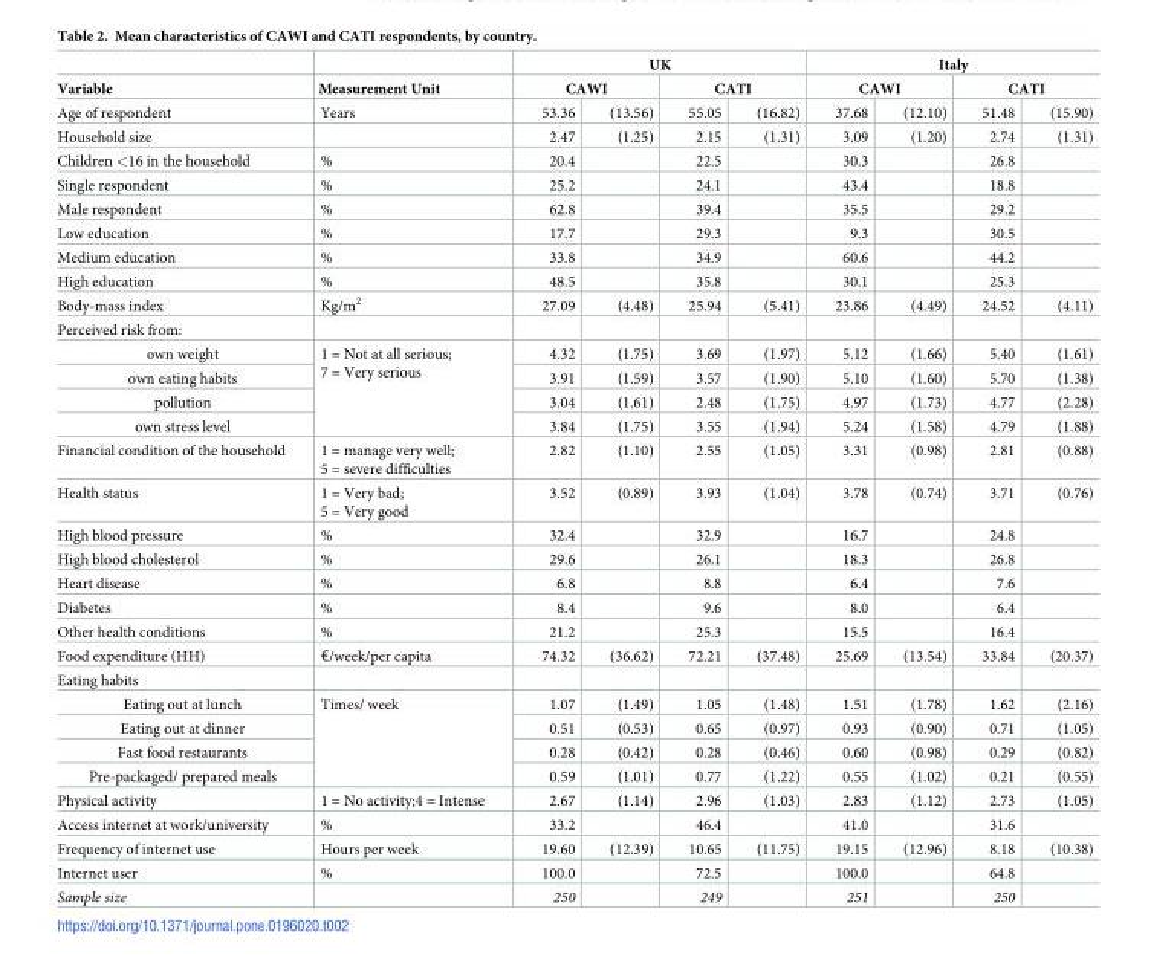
<table><thead><tr><td rowspan="3">Variable Age of respondent</td><td rowspan="3">Measurement Unit Years</td><td colspan="4">UK</td><td colspan="4">Italy</td></tr><tr><td colspan="2">CAWI</td><td colspan="2">CATI</td><td colspan="2">CAWI</td><td colspan="2">CATI</td></tr><tr><td>53.36</td><td>(13.56)</td><td>55.05</td><td>(16.82)</td><td>37.68</td><td>(12.10)</td><td>51.48</td><td>(15.90)</td></tr></thead><tbody><tr><td>Household size</td><td></td><td>2.47</td><td>(1.25)</td><td>2.15</td><td>(1.31)</td><td>3.09</td><td>(1.20)</td><td>2.74</td><td>(1.31)</td></tr><tr><td>Children &lt;16 in the household</td><td>%</td><td>20.4</td><td></td><td>22.5</td><td></td><td>30.3</td><td></td><td>26.8</td><td></td></tr><tr><td>Single respondent</td><td>%</td><td>25.2</td><td></td><td>24.1</td><td></td><td>43.4</td><td></td><td>18.8</td><td></td></tr><tr><td>Male respondent</td><td>%</td><td>62.8</td><td></td><td>39.4</td><td></td><td>35.5</td><td></td><td>29.2</td><td></td></tr><tr><td>Low education</td><td>%</td><td>17.7</td><td></td><td>29.3</td><td></td><td>9.3</td><td></td><td>30.5</td><td></td></tr><tr><td>Medium education</td><td>%</td><td>33.8</td><td></td><td>34.9</td><td></td><td>60.6</td><td></td><td>44.2</td><td></td></tr><tr><td>High education</td><td>%</td><td>48.5</td><td></td><td>35.8</td><td></td><td>30.1</td><td></td><td>25.3</td><td></td></tr><tr><td>Body-mass index</td><td>Kg/m<sup>2</sup></td><td>27.09</td><td>(4.48)</td><td>25.94</td><td>(5.41)</td><td>23.86</td><td>(4.49)</td><td>24.52</td><td>(4.11)</td></tr><tr><td colspan="10">Perceived risk from:</td></tr><tr><td>own weight</td><td rowspan="4">1 = Not at all serious; 7 = Very serious</td><td>4.32</td><td>(1.75)</td><td>3.69</td><td>(1.97)</td><td>5.12</td><td>(1.66)</td><td>5.40</td><td>(1.61)</td></tr><tr><td>own eating habits</td><td>3.91</td><td>(1.59)</td><td>3.57</td><td>(1.90)</td><td>5.10</td><td>(1.60)</td><td>5.70</td><td>(1.38)</td></tr><tr><td>pollution</td><td>3.04</td><td>(1.61)</td><td>2.48</td><td>(1.75)</td><td>4.97</td><td>(1.73)</td><td>4.77</td><td>(2.28)</td></tr><tr><td>own stress level</td><td>3.84</td><td>(1.75)</td><td>3.55</td><td>(1.94)</td><td>5.24</td><td>(1.58)</td><td>4.79</td><td>(1.88)</td></tr><tr><td>Financial condition of the household</td><td>1 = manage very well; 5 = severe difficulties</td><td>2.82</td><td>(1.10)</td><td>2.55</td><td>(1.05)</td><td>3.31</td><td>(0.98)</td><td>2.81</td><td>(0.88)</td></tr><tr><td>Health status</td><td>1 = Very bad; 5 = Very good</td><td>3.52</td><td>(0.89)</td><td>3.93</td><td>(1.04)</td><td>3.78</td><td>(0.74)</td><td>3.71</td><td>(0.76)</td></tr><tr><td>High blood pressure</td><td>%</td><td>32.4</td><td></td><td>32.9</td><td></td><td>16.7</td><td></td><td>24.8</td><td></td></tr><tr><td>High blood cholesterol</td><td>%</td><td>29.6</td><td></td><td>26.1</td><td></td><td>18.3</td><td></td><td>26.8</td><td></td></tr><tr><td>Heart disease</td><td>%</td><td>6.8</td><td></td><td>8.8</td><td></td><td>6.4</td><td></td><td>7.6</td><td></td></tr><tr><td>Diabetes</td><td>%</td><td>8.4</td><td></td><td>9.6</td><td></td><td>8.0</td><td></td><td>6.4</td><td></td></tr><tr><td>Other health conditions</td><td>%</td><td>21.2</td><td></td><td>25.3</td><td></td><td>15.5</td><td></td><td>16.4</td><td></td></tr><tr><td>Food expenditure (HH)</td><td>€/week/per capita</td><td>74.32</td><td>(36.62)</td><td>72.21</td><td>(37.48)</td><td>25.69</td><td>(13.54)</td><td>33.84</td><td>(20.37)</td></tr><tr><td colspan="10">Eating habits</td></tr><tr><td>Eating out at lunch</td><td rowspan="4">Times/ week</td><td>1.07</td><td>(1.49)</td><td>1.05</td><td>(1.48)</td><td>1.51</td><td>(1.78)</td><td>1.62</td><td>(2.16)</td></tr><tr><td>Eating out at dinner</td><td>0.51</td><td>(0.53)</td><td>0.65</td><td>(0.97)</td><td>0.93</td><td>(0.90)</td><td>0.71</td><td>(1.05)</td></tr><tr><td>Fast food restaurants</td><td>0.28</td><td>(0.42)</td><td>0.28</td><td>(0.46)</td><td>0.60</td><td>(0.98)</td><td>0.29</td><td>(0.82)</td></tr><tr><td>Pre-packaged/ prepared meals</td><td>0.59</td><td>(1.01)</td><td>0.77</td><td>(1.22)</td><td>0.55</td><td>(1.02)</td><td>0.21</td><td>(0.55)</td></tr><tr><td>Physical activity</td><td>1 = No activity;4 = Intense</td><td>2.67</td><td>(1.14)</td><td>2.96</td><td>(1.03)</td><td>2.83</td><td>(1.12)</td><td>2.73</td><td>(1.05)</td></tr><tr><td>Access internet at work/university</td><td>%</td><td>33.2</td><td></td><td>46.4</td><td></td><td>41.0</td><td></td><td>31.6</td><td></td></tr><tr><td>Frequency of internet use</td><td>Hours per week</td><td>19.60</td><td>(12.39)</td><td>10.65</td><td>(11.75)</td><td>19.15</td><td>(12.96)</td><td>8.18</td><td>(10.38)</td></tr><tr><td>Internet user</td><td>%</td><td>100.0</td><td></td><td>72.5</td><td></td><td>100.0</td><td></td><td>64.8</td><td></td></tr><tr><td>Sample size</td><td></td><td>250</td><td></td><td>249</td><td></td><td>251</td><td></td><td>250</td><td></td></tr></tbody></table>